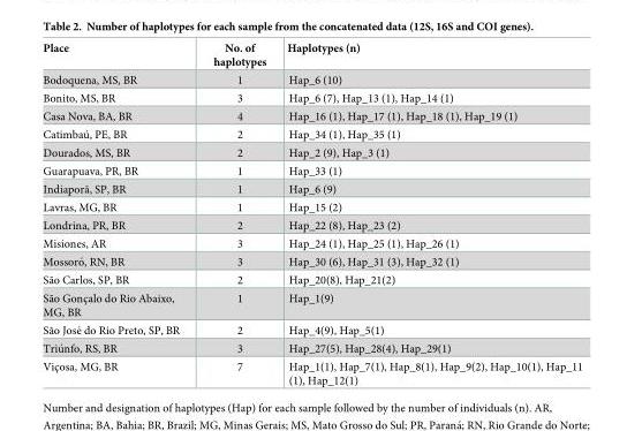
<table><thead><tr><td>Place</td><td>No. of haplotypes</td><td>Haplotypes (n)</td></tr></thead><tbody><tr><td>Bodoquena, MS, BR</td><td>1</td><td>Hap_6 (10)</td></tr><tr><td>Bonito, MS, BR</td><td>3</td><td>Hap_6 (7), Hap_13 (1), Hap_14 (1)</td></tr><tr><td>Casa Nova, BA, BR</td><td>4</td><td>Hap_16 (1), Hap_17 (1), Hap_18 (1), Hap_19 (1)</td></tr><tr><td>Catimbau´, PE, BR</td><td>2</td><td>Hap_34 (1), Hap_35 (1)</td></tr><tr><td>Dourados, MS, BR</td><td>2</td><td>Hap_2 (9), Hap_3 (1)</td></tr><tr><td>Guarapuava, PR, BR</td><td>1</td><td>Hap_33 (1)</td></tr><tr><td>Indiaporã, SP, BR</td><td>1</td><td>Hap_6 (9)</td></tr><tr><td>Lavras, MG, BR</td><td>1</td><td>Hap_15 (2)</td></tr><tr><td>Londrina, PR, BR</td><td>2</td><td>Hap_22 (8), Hap_23 (2)</td></tr><tr><td>Misiones, AR</td><td>3</td><td>Hap_24 (1), Hap_25 (1), Hap_26 (1)</td></tr><tr><td>Mossoro´, RN, BR</td><td>3</td><td>Hap_30 (6), Hap_31 (3), Hap_32 (1)</td></tr><tr><td>São Carlos, SP, BR</td><td>2</td><td>Hap_20(8), Hap_21(2)</td></tr><tr><td>São Gonc¸alo do Rio Abaixo, MG, BR</td><td>1</td><td>Hap_1(9)</td></tr><tr><td>São Jose´ do Rio Preto, SP, BR</td><td>2</td><td>Hap_4(9), Hap_5(1)</td></tr><tr><td>Triu´nfo, RS, BR</td><td>3</td><td>Hap_27(5), Hap_28(4), Hap_29(1)</td></tr><tr><td>Vic¸osa, MG, BR</td><td>7</td><td>Hap_1(1), Hap_7(1), Hap_8(1), Hap_9(2), Hap_10(1), Hap_11 (1), Hap_12(1)</td></tr></tbody></table>